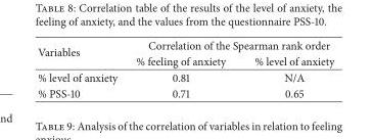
<table><thead><tr><td rowspan="2">Variables</td><td colspan="2">Correlation of the Spearman rank order</td></tr><tr><td>% feeling of anxiety</td><td>% level of anxiety</td></tr></thead><tbody><tr><td>% level of anxiety</td><td>0.81</td><td>N/A</td></tr><tr><td>% PSS-10</td><td>0.71</td><td>0.65</td></tr></tbody></table>